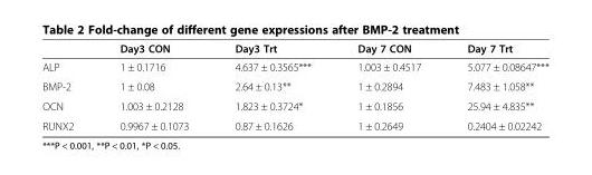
<table><thead><tr><td></td><td>Day3 CON</td><td>Day3 Trt</td><td>Day 7 CON</td><td>Day 7 Trt</td></tr></thead><tbody><tr><td>ALP</td><td>1 ± 0.1716</td><td>4.637 ± 0.3565***</td><td>1.003 ± 0.4517</td><td>5.077 ± 0.08647***</td></tr><tr><td>BMP-2</td><td>1 ± 0.08</td><td>2.64 ± 0.13**</td><td>1 ± 0.2894</td><td>7.483 ± 1.058**</td></tr><tr><td>OCN</td><td>1.003 ± 0.2128</td><td>1.823 ± 0.3724*</td><td>1 ± 0.1856</td><td>25.94 ± 4.835**</td></tr><tr><td>RUNX2</td><td>0.9967 ± 0.1073</td><td>0.87 ± 0.1626</td><td>1 ± 0.2649</td><td>0.2404 ± 0.02242</td></tr></tbody></table>